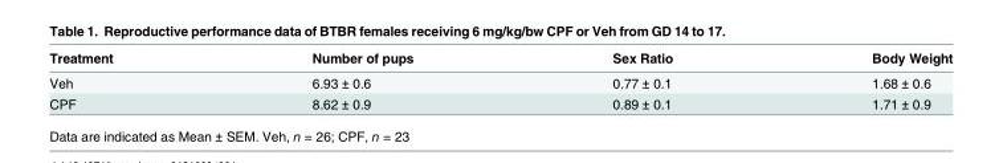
<table><thead><tr><td>Treatment</td><td>Number of pups</td><td>Sex Ratio</td><td>Body Weight</td></tr></thead><tbody><tr><td>Veh</td><td>6.93 ± 0.6</td><td>0.77 ± 0.1</td><td>1.68 ± 0.6</td></tr><tr><td>CPF</td><td>8.62 ± 0.9</td><td>0.89 ± 0.1</td><td>1.71 ± 0.9</td></tr></tbody></table>